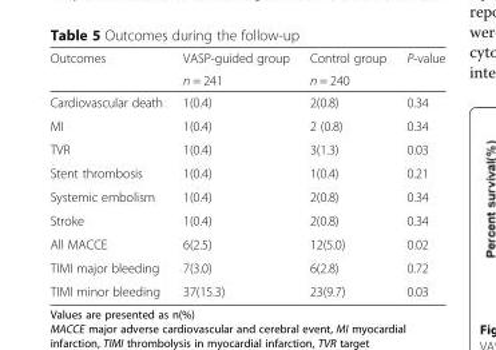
<table><thead><tr><td rowspan="2">Outcomes</td><td rowspan="2">VASP-guided group n = 241</td><td rowspan="2">Control group n = 240</td><td rowspan="2">P-value</td></tr><tr></tr></thead><tbody><tr><td>Cardiovascular death</td><td>1(0.4)</td><td>2(0.8)</td><td>0.34</td></tr><tr><td>MI</td><td>1(0.4)</td><td>2 (0.8)</td><td>0.34</td></tr><tr><td>TVR</td><td>1(0.4)</td><td>3(1.3)</td><td>0.03</td></tr><tr><td>Stent thrombosis</td><td>1(0.4)</td><td>1(0.4)</td><td>0.21</td></tr><tr><td>Systemic embolism</td><td>1(0.4)</td><td>2(0.8)</td><td>0.34</td></tr><tr><td>Stroke</td><td>1(0.4)</td><td>2(0.8)</td><td>0.34</td></tr><tr><td>All MACCE</td><td>6(2.5)</td><td>12(5.0)</td><td>0.02</td></tr><tr><td>TIMI major bleeding</td><td>7(3.0)</td><td>6(2.8)</td><td>0.72</td></tr><tr><td>TIMI minor bleeding</td><td>37(15.3)</td><td>23(9.7)</td><td>0.03</td></tr></tbody></table>